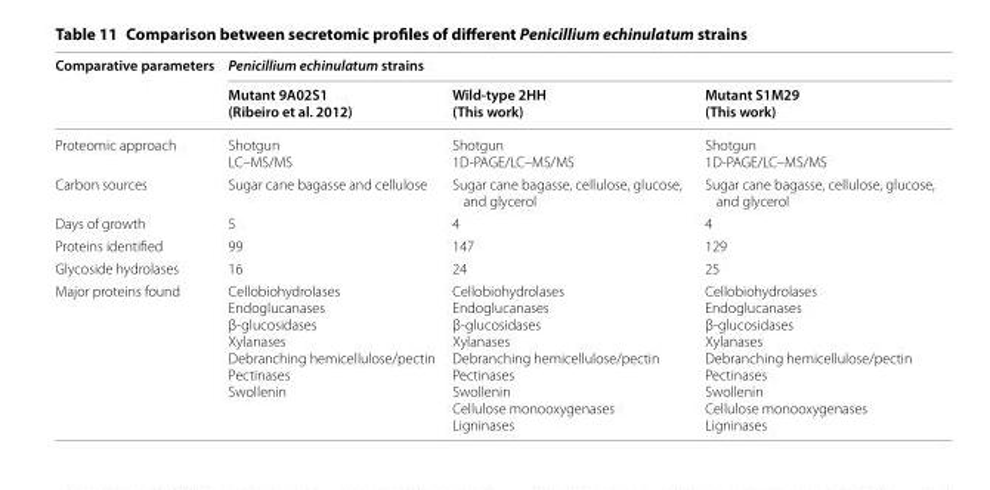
<table><thead><tr><td rowspan="2">Comparative parameters</td><td colspan="3">Penicillium echinulatum strains</td></tr><tr><td>Mutant 9A02S1 (Ribeiro et al. 2012)</td><td>Wild-type 2HH (This work)</td><td>Mutant S1M29 (This work)</td></tr></thead><tbody><tr><td>Proteomic approach</td><td>Shotgun LC–MS/MS</td><td>Shotgun 1D-PAGE/LC–MS/MS</td><td>Shotgun 1D-PAGE/LC–MS/MS</td></tr><tr><td>Carbon sources</td><td>Sugar cane bagasse and cellulose</td><td>Sugar cane bagasse, cellulose, glucose, and glycerol</td><td>Sugar cane bagasse, cellulose, glucose, and glycerol</td></tr><tr><td>Days of growth</td><td>5</td><td>4</td><td>4</td></tr><tr><td>Proteins identified</td><td>99</td><td>147</td><td>129</td></tr><tr><td>Glycoside hydrolases</td><td>16</td><td>24</td><td>25</td></tr><tr><td>Major proteins found</td><td>Cellobiohydrolases Endoglucanases β-glucosidases Xylanases Debranching hemicellulose/pectin Pectinases Swollenin</td><td>Cellobiohydrolases Endoglucanases β-glucosidases Xylanases Debranching hemicellulose/pectin Pectinases Swollenin Cellulose monooxygenases Ligninases</td><td>Cellobiohydrolases Endoglucanases β-glucosidases Xylanases Debranching hemicellulose/pectin Pectinases Swollenin Cellulose monooxygenases Ligninases</td></tr></tbody></table>